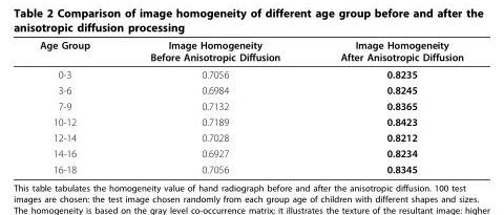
<table><thead><tr><td>Age Group</td><td>Image Homogeneity Before Anisotropic Diffusion</td><td>Image Homogeneity After Anisotropic Diffusion</td></tr></thead><tbody><tr><td>0-3</td><td>0.7056</td><td>0.8235</td></tr><tr><td>3-6</td><td>0.6984</td><td>0.8245</td></tr><tr><td>7-9</td><td>0.7132</td><td>0.8365</td></tr><tr><td>10-12</td><td>0.7189</td><td>0.8423</td></tr><tr><td>12-14</td><td>0.7028</td><td>0.8212</td></tr><tr><td>14-16</td><td>0.6927</td><td>0.8234</td></tr><tr><td>16-18</td><td>0.7056</td><td>0.8345</td></tr></tbody></table>